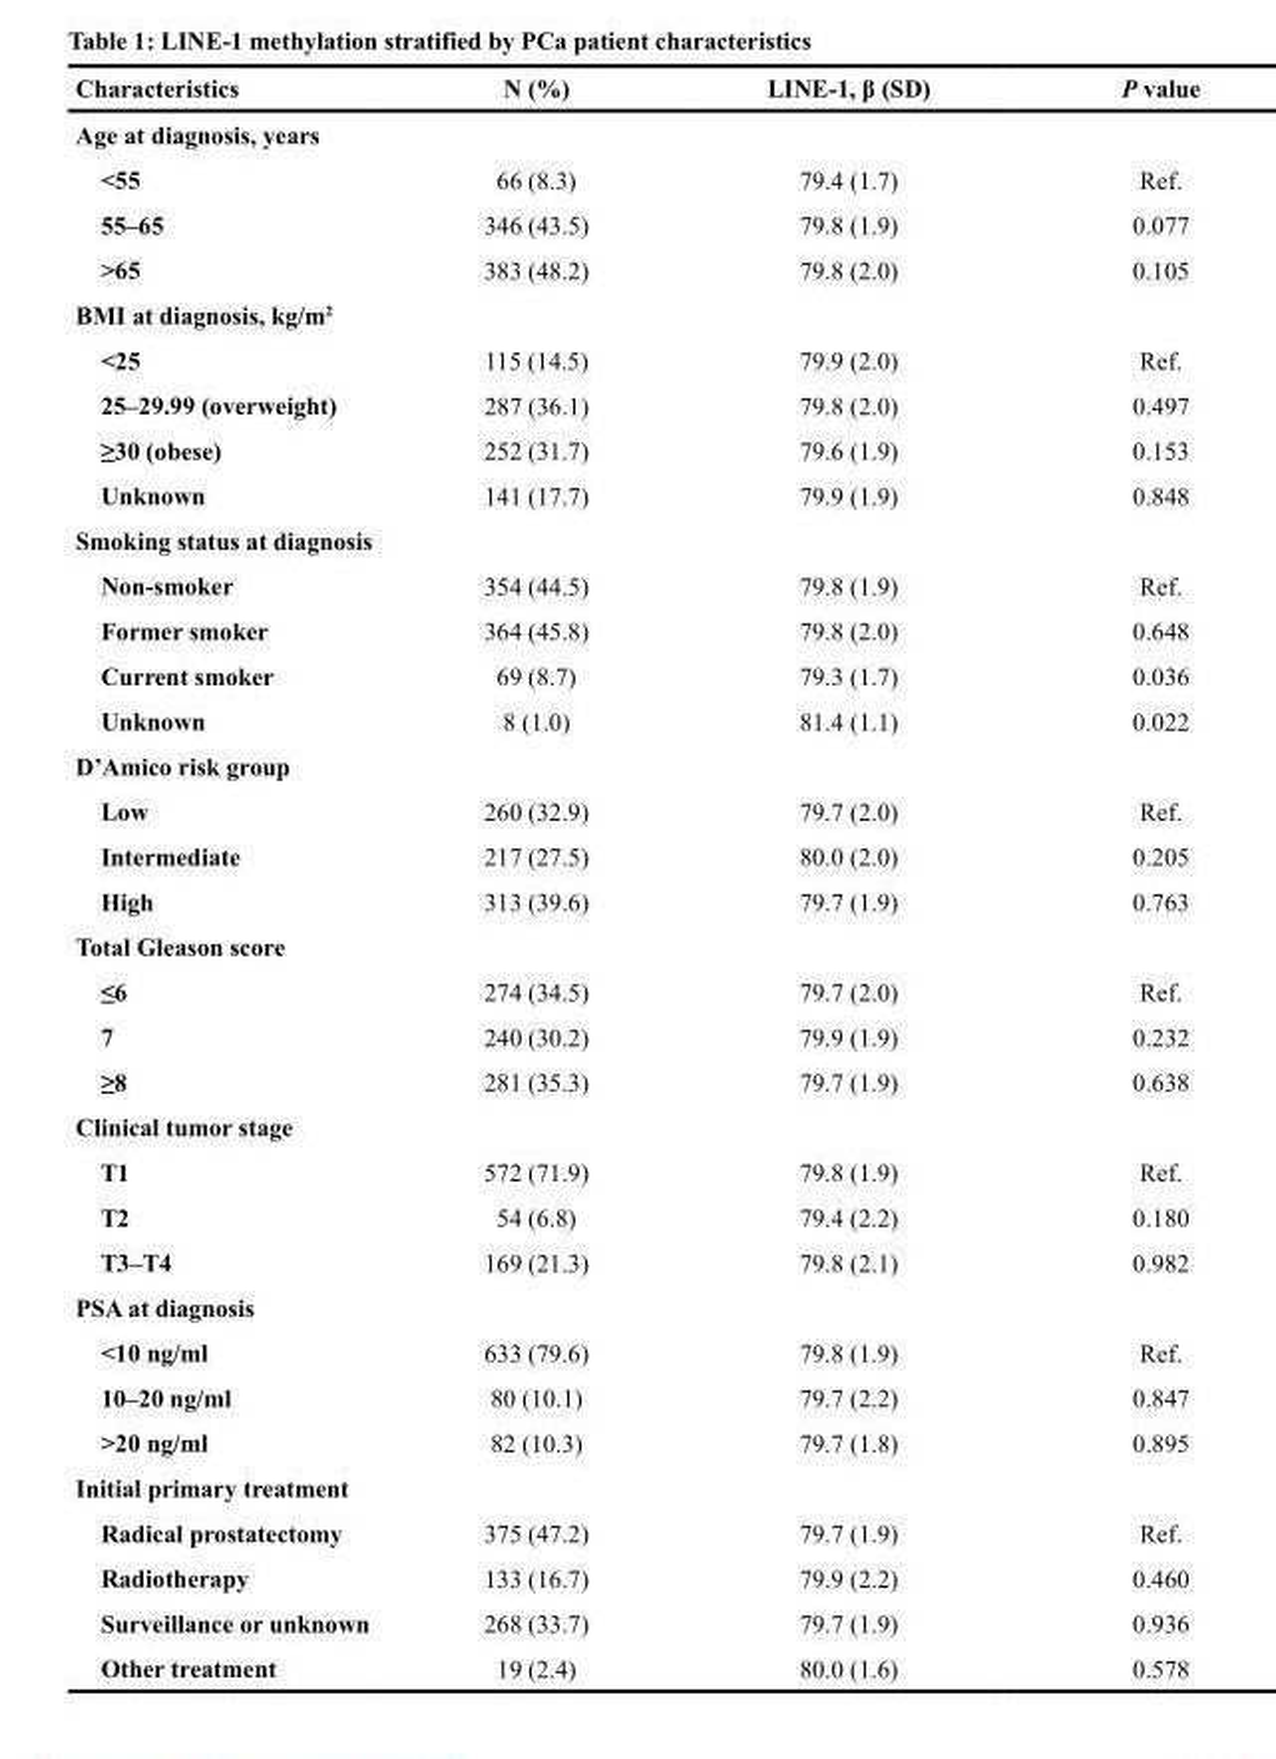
<table><thead><tr><td>Characteristics</td><td>N (%)</td><td>LINE-1, β (SD)</td><td>P value</td></tr></thead><tbody><tr><td colspan="4">Age at diagnosis, years</td></tr><tr><td>&lt;55</td><td>66 (8.3)</td><td>79.4 (1.7)</td><td>Ref.</td></tr><tr><td>55–65</td><td>346 (43.5)</td><td>79.8 (1.9)</td><td>0.077</td></tr><tr><td>&gt;65</td><td>383 (48.2)</td><td>79.8 (2.0)</td><td>0.105</td></tr><tr><td colspan="4">BMI at diagnosis, kg/m<sup>2</sup></td></tr><tr><td>&lt;25</td><td>115 (14.5)</td><td>79.9 (2.0)</td><td>Ref.</td></tr><tr><td>25–29.99 (overweight)</td><td>287 (36.1)</td><td>79.8 (2.0)</td><td>0.497</td></tr><tr><td>≥30 (obese)</td><td>252 (31.7)</td><td>79.6 (1.9)</td><td>0.153</td></tr><tr><td>Unknown</td><td>141 (17.7)</td><td>79.9 (1.9)</td><td>0.848</td></tr><tr><td colspan="4">Smoking status at diagnosis</td></tr><tr><td>Non-smoker</td><td>354 (44.5)</td><td>79.8 (1.9)</td><td>Ref.</td></tr><tr><td>Former smoker</td><td>364 (45.8)</td><td>79.8 (2.0)</td><td>0.648</td></tr><tr><td>Current smoker</td><td>69 (8.7)</td><td>79.3 (1.7)</td><td>0.036</td></tr><tr><td>Unknown</td><td>8 (1.0)</td><td>81.4 (1.1)</td><td>0.022</td></tr><tr><td colspan="4">D’Amico risk group</td></tr><tr><td>Low</td><td>260 (32.9)</td><td>79.7 (2.0)</td><td>Ref.</td></tr><tr><td>Intermediate</td><td>217 (27.5)</td><td>80.0 (2.0)</td><td>0.205</td></tr><tr><td>High</td><td>313 (39.6)</td><td>79.7 (1.9)</td><td>0.763</td></tr><tr><td colspan="4">Total Gleason score</td></tr><tr><td>≤6</td><td>274 (34.5)</td><td>79.7 (2.0)</td><td>Ref.</td></tr><tr><td>7</td><td>240 (30.2)</td><td>79.9 (1.9)</td><td>0.232</td></tr><tr><td>≥8</td><td>281 (35.3)</td><td>79.7 (1.9)</td><td>0.638</td></tr><tr><td colspan="4">Clinical tumor stage</td></tr><tr><td>T1</td><td>572 (71.9)</td><td>79.8 (1.9)</td><td>Ref.</td></tr><tr><td>T2</td><td>54 (6.8)</td><td>79.4 (2.2)</td><td>0.180</td></tr><tr><td>T3–T4</td><td>169 (21.3)</td><td>79.8 (2.1)</td><td>0.982</td></tr><tr><td colspan="4">PSA at diagnosis</td></tr><tr><td>&lt;10 ng/ml</td><td>633 (79.6)</td><td>79.8 (1.9)</td><td>Ref.</td></tr><tr><td>10–20 ng/ml</td><td>80 (10.1)</td><td>79.7 (2.2)</td><td>0.847</td></tr><tr><td>&gt;20 ng/ml</td><td>82 (10.3)</td><td>79.7 (1.8)</td><td>0.895</td></tr><tr><td colspan="4">Initial primary treatment</td></tr><tr><td>Radical prostatectomy</td><td>375 (47.2)</td><td>79.7 (1.9)</td><td>Ref.</td></tr><tr><td>Radiotherapy</td><td>133 (16.7)</td><td>79.9 (2.2)</td><td>0.460</td></tr><tr><td>Surveillance or unknown</td><td>268 (33.7)</td><td>79.7 (1.9)</td><td>0.936</td></tr><tr><td>Other treatment</td><td>19 (2.4)</td><td>80.0 (1.6)</td><td>0.578</td></tr></tbody></table>